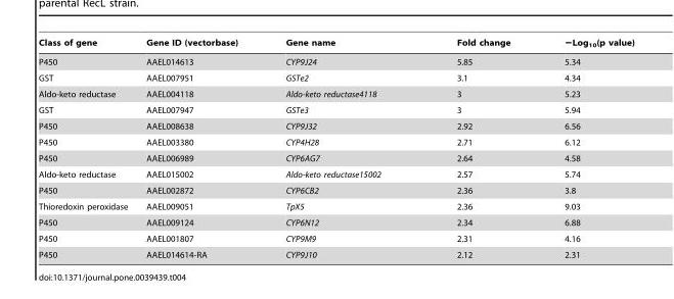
<table><thead><tr><td>Class of gene</td><td>Gene ID (vectorbase)</td><td>Gene name</td><td>Fold change</td><td>−Log<sub>10</sub>(p value)</td></tr></thead><tbody><tr><td>P450</td><td>AAEL014613</td><td>CYP9J24</td><td>5.85</td><td>5.34</td></tr><tr><td>GST</td><td>AAEL007951</td><td>GSTe2</td><td>3.1</td><td>4.34</td></tr><tr><td>Aldo-keto reductase</td><td>AAEL004118</td><td>Aldo-keto reductase4118</td><td>3</td><td>5.23</td></tr><tr><td>GST</td><td>AAEL007947</td><td>GSTe3</td><td>3</td><td>5.94</td></tr><tr><td>P450</td><td>AAEL008638</td><td>CYP9J32</td><td>2.92</td><td>6.56</td></tr><tr><td>P450</td><td>AAEL003380</td><td>CYP4H28</td><td>2.71</td><td>6.12</td></tr><tr><td>P450</td><td>AAEL006989</td><td>CYP6AG7</td><td>2.64</td><td>4.58</td></tr><tr><td>Aldo-keto reductase</td><td>AAEL015002</td><td>Aldo-keto reductase15002</td><td>2.57</td><td>5.74</td></tr><tr><td>P450</td><td>AAEL002872</td><td>CYP6CB2</td><td>2.36</td><td>3.8</td></tr><tr><td>Thioredoxin peroxidase</td><td>AAEL009051</td><td>TpX5</td><td>2.36</td><td>9.03</td></tr><tr><td>P450</td><td>AAEL009124</td><td>CYP6N12</td><td>2.34</td><td>6.88</td></tr><tr><td>P450</td><td>AAEL001807</td><td>CYP9M9</td><td>2.31</td><td>4.16</td></tr><tr><td>P450</td><td>AAEL014614-RA</td><td>CYP9J10</td><td>2.12</td><td>2.31</td></tr></tbody></table>